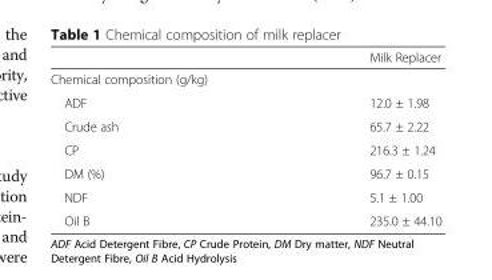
<table><thead><tr><td></td><td>Milk Replacer</td></tr></thead><tbody><tr><td colspan="2">Chemical composition (g/kg)</td></tr><tr><td>ADF</td><td>12.0 ± 1.98</td></tr><tr><td>Crude ash</td><td>65.7 ± 2.22</td></tr><tr><td>CP</td><td>216.3 ± 1.24</td></tr><tr><td>DM (%)</td><td>96.7 ± 0.15</td></tr><tr><td>NDF</td><td>5.1 ± 1.00</td></tr><tr><td>Oil B</td><td>235.0 ± 44.10</td></tr></tbody></table>